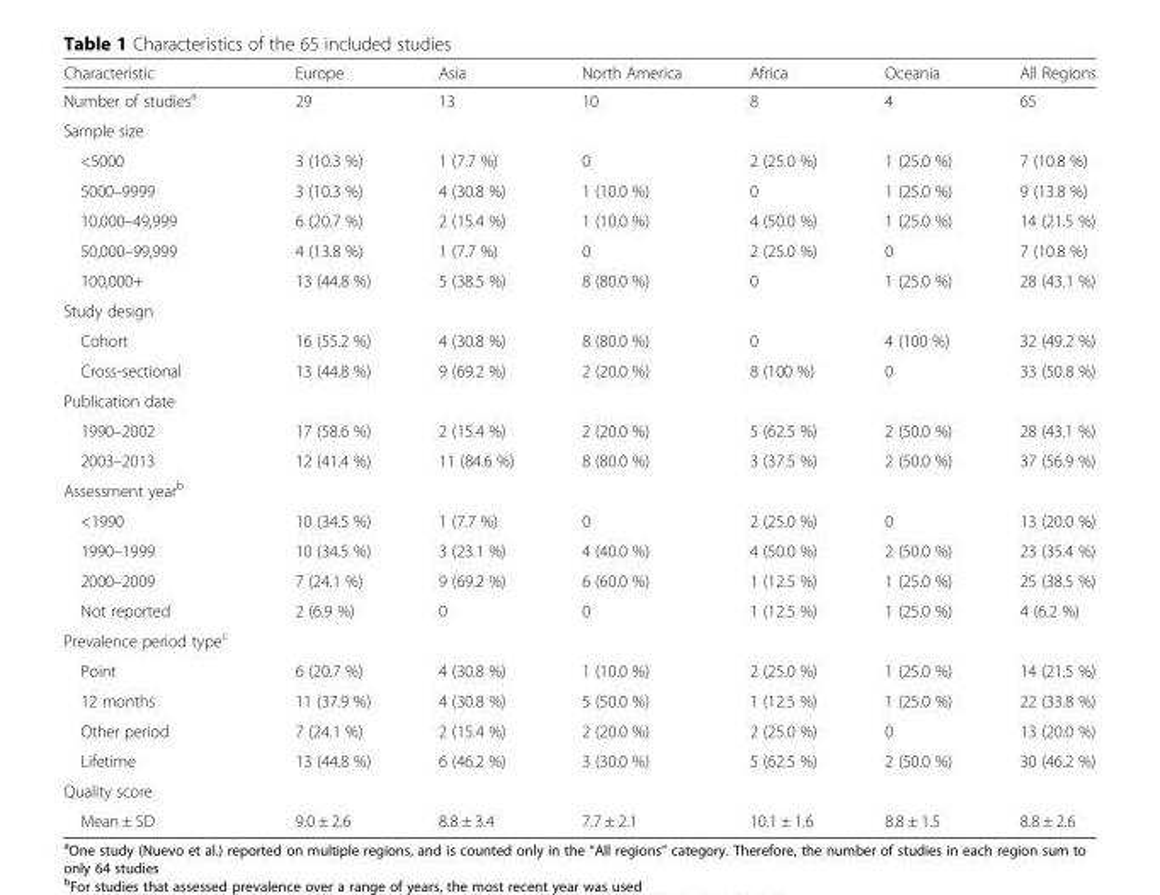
<table><thead><tr><td>Characteristic</td><td>Europe</td><td>Asia</td><td>North America</td><td>Africa</td><td>Oceania</td><td>All Regions</td></tr></thead><tbody><tr><td>Number of studies<sup>a</sup></td><td>29</td><td>13</td><td>10</td><td>8</td><td>4</td><td>65</td></tr><tr><td colspan="7">Sample size</td></tr><tr><td>&lt;5000</td><td>3 (10.3 %)</td><td>1 (7.7 %)</td><td>0</td><td>2 (25.0 %)</td><td>1 (25.0 %)</td><td>7 (10.8 %)</td></tr><tr><td>5000–9999</td><td>3 (10.3 %)</td><td>4 (30.8 %)</td><td>1 (10.0 %)</td><td>0</td><td>1 (25.0 %)</td><td>9 (13.8 %)</td></tr><tr><td>10,000–49,999</td><td>6 (20.7 %)</td><td>2 (15.4 %)</td><td>1 (10.0 %)</td><td>4 (50.0 %)</td><td>1 (25.0 %)</td><td>14 (21.5 %)</td></tr><tr><td>50,000–99,999</td><td>4 (13.8 %)</td><td>1 (7.7 %)</td><td>0</td><td>2 (25.0 %)</td><td>0</td><td>7 (10.8 %)</td></tr><tr><td>100,000+</td><td>13 (44.8 %)</td><td>5 (38.5 %)</td><td>8 (80.0 %)</td><td>0</td><td>1 (25.0 %)</td><td>28 (43.1 %)</td></tr><tr><td colspan="7">Study design</td></tr><tr><td>Cohort</td><td>16 (55.2 %)</td><td>4 (30.8 %)</td><td>8 (80.0 %)</td><td>0</td><td>4 (100 %)</td><td>32 (49.2 %)</td></tr><tr><td>Cross-sectional</td><td>13 (44.8 %)</td><td>9 (69.2 %)</td><td>2 (20.0 %)</td><td>8 (100 %)</td><td>0</td><td>33 (50.8 %)</td></tr><tr><td colspan="7">Publication date</td></tr><tr><td>1990–2002</td><td>17 (58.6 %)</td><td>2 (15.4 %)</td><td>2 (20.0 %)</td><td>5 (62.5 %)</td><td>2 (50.0 %)</td><td>28 (43.1 %)</td></tr><tr><td>2003–2013</td><td>12 (41.4 %)</td><td>11 (84.6 %)</td><td>8 (80.0 %)</td><td>3 (37.5 %)</td><td>2 (50.0 %)</td><td>37 (56.9 %)</td></tr><tr><td colspan="7">Assessment year<sup>b</sup></td></tr><tr><td>&lt;1990</td><td>10 (34.5 %)</td><td>1 (7.7 %)</td><td>0</td><td>2 (25.0 %)</td><td>0</td><td>13 (20.0 %)</td></tr><tr><td>1990–1999</td><td>10 (34.5 %)</td><td>3 (23.1 %)</td><td>4 (40.0 %)</td><td>4 (50.0 %)</td><td>2 (50.0 %)</td><td>23 (35.4 %)</td></tr><tr><td>2000–2009</td><td>7 (24.1 %)</td><td>9 (69.2 %)</td><td>6 (60.0 %)</td><td>1 (12.5 %)</td><td>1 (25.0 %)</td><td>25 (38.5 %)</td></tr><tr><td>Not reported</td><td>2 (6.9 %)</td><td>0</td><td>0</td><td>1 (12.5 %)</td><td>1 (25.0 %)</td><td>4 (6.2 %)</td></tr><tr><td colspan="7">Prevalence period type<sup>c</sup></td></tr><tr><td>Point</td><td>6 (20.7 %)</td><td>4 (30.8 %)</td><td>1 (10.0 %)</td><td>2 (25.0 %)</td><td>1 (25.0 %)</td><td>14 (21.5 %)</td></tr><tr><td>12 months</td><td>11 (37.9 %)</td><td>4 (30.8 %)</td><td>5 (50.0 %)</td><td>1 (12.5 %)</td><td>1 (25.0 %)</td><td>22 (33.8 %)</td></tr><tr><td>Other period</td><td>7 (24.1 %)</td><td>2 (15.4 %)</td><td>2 (20.0 %)</td><td>2 (25.0 %)</td><td>0</td><td>13 (20.0 %)</td></tr><tr><td>Lifetime</td><td>13 (44.8 %)</td><td>6 (46.2 %)</td><td>3 (30.0 %)</td><td>5 (62.5 %)</td><td>2 (50.0 %)</td><td>30 (46.2 %)</td></tr><tr><td colspan="7">Quality score</td></tr><tr><td>Mean ± SD</td><td>9.0 ± 2.6</td><td>8.8 ± 3.4</td><td>7.7 ± 2.1</td><td>10.1 ± 1.6</td><td>8.8 ± 1.5</td><td>8.8 ± 2.6</td></tr></tbody></table>